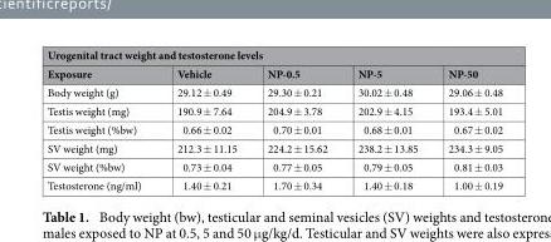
<table><thead><tr><td colspan="5">Urogenital tract weight and testosterone levels</td></tr><tr><td>Exposure</td><td>Vehicle</td><td>NP-0.5</td><td>NP-5</td><td>NP-50</td></tr></thead><tbody><tr><td>Body weight (g)</td><td>29.12 ± 0.49</td><td>29.30 ± 0.21</td><td>30.02 ± 0.48</td><td>29.06 ± 0.48</td></tr><tr><td>Testis weight (mg)</td><td>190.9 ± 7.64</td><td>204.9 ± 3.78</td><td>202.9 ± 4.15</td><td>193.4 ± 5.01</td></tr><tr><td>Testis weight (%bw)</td><td>0.66 ± 0.02</td><td>0.70 ± 0.01</td><td>0.68 ± 0.01</td><td>0.67 ± 0.02</td></tr><tr><td>SV weight (mg)</td><td>212.3 ± 11.15</td><td>224.2 ± 15.62</td><td>238.2 ± 13.85</td><td>234.3 ± 9.05</td></tr><tr><td>SV weight (%bw)</td><td>0.73 ± 0.04</td><td>0.77 ± 0.05</td><td>0.79 ± 0.05</td><td>0.81 ± 0.03</td></tr><tr><td>Testosterone (ng/ml)</td><td>1.40 ± 0.21</td><td>1.70 ± 0.34</td><td>1.40 ± 0.18</td><td>1.00 ± 0.19</td></tr></tbody></table>